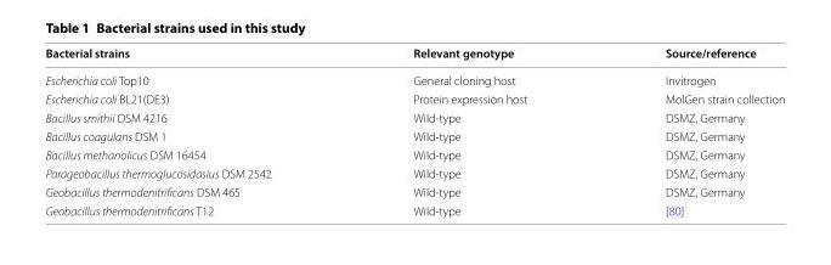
<table><thead><tr><td>Bacterial strains</td><td>Relevant genotype</td><td>Source/reference</td></tr></thead><tbody><tr><td>Escherichia coli Top10</td><td>General cloning host</td><td>Invitrogen</td></tr><tr><td>Escherichia coli BL21(DE3)</td><td>Protein expression host</td><td>MolGen strain collection</td></tr><tr><td>Bacillus smithii DSM 4216</td><td>Wild-type</td><td>DSMZ, Germany</td></tr><tr><td>Bacillus coagulans DSM 1</td><td>Wild-type</td><td>DSMZ, Germany</td></tr><tr><td>Bacillus methanolicus DSM 16454</td><td>Wild-type</td><td>DSMZ, Germany</td></tr><tr><td>Parageobacillus thermoglucosidasius DSM 2542</td><td>Wild-type</td><td>DSMZ, Germany</td></tr><tr><td>Geobacillus thermodenitrificans DSM 465</td><td>Wild-type</td><td>DSMZ, Germany</td></tr><tr><td>Geobacillus thermodenitrificans T12</td><td>Wild-type</td><td>[80]</td></tr></tbody></table>